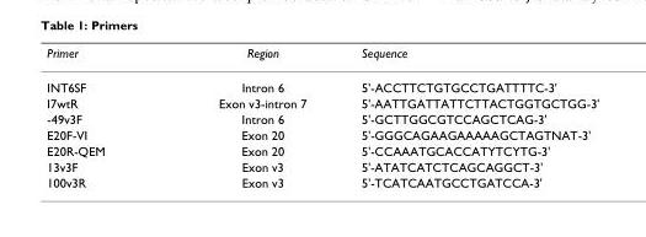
<table><thead><tr><td>Primer</td><td>Region</td><td>Sequence</td></tr></thead><tbody><tr><td>INT6SF</td><td>Intron 6</td><td>5&#x27;-ACCTTCTGTGCCTGATTTTC-3&#x27;</td></tr><tr><td>I7wtR</td><td>Exon v3-intron 7</td><td>5&#x27;-AATTGATTATTCTTACTGGTGCTGG-3&#x27;</td></tr><tr><td>-49v3F</td><td>Intron 6</td><td>5&#x27;-GCTTGGCGTCCAGCTCAG-3&#x27;</td></tr><tr><td>E20F-VI</td><td>Exon 20</td><td>5&#x27;-GGGCAGAAGAAAAAGCTAGTNAT-3&#x27;</td></tr><tr><td>E20R-QEM</td><td>Exon 20</td><td>5&#x27;-CCAAATGCACCATYTCYTG-3&#x27;</td></tr><tr><td>13v3F</td><td>Exon v3</td><td>5&#x27;-ATATCATCTCAGCAGGCT-3&#x27;</td></tr><tr><td>100v3R</td><td>Exon v3</td><td>5&#x27;-TCATCAATGCCTGATCCA-3&#x27;</td></tr></tbody></table>